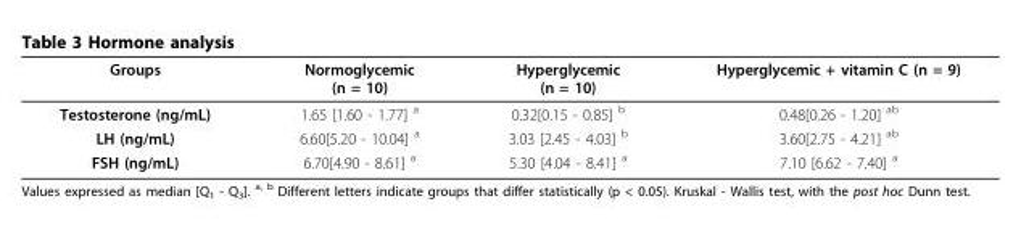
<table><thead><tr><td>Groups</td><td>Normoglycemic (n = 10)</td><td>Hyperglycemic (n = 10)</td><td>Hyperglycemic + vitamin C (n = 9)</td></tr></thead><tbody><tr><td>Testosterone (ng/mL)</td><td>1.65 [1.60 - 1.77] <sup>a</sup></td><td>0.32[0.15 - 0.85] <sup>b</sup></td><td>0.48[0.26 - 1.20] <sup>ab</sup></td></tr><tr><td>LH (ng/mL)</td><td>6.60[5.20 - 10.04] <sup>a</sup></td><td>3.03 [2.45 - 4.03] <sup>b</sup></td><td>3.60[2.75 - 4.21] <sup>ab</sup></td></tr><tr><td>FSH (ng/mL)</td><td>6.70[4.90 - 8.61] <sup>a</sup></td><td>5.30 [4.04 - 8.41] <sup>a</sup></td><td>7.10 [6.62 - 7.40] <sup>a</sup></td></tr></tbody></table>